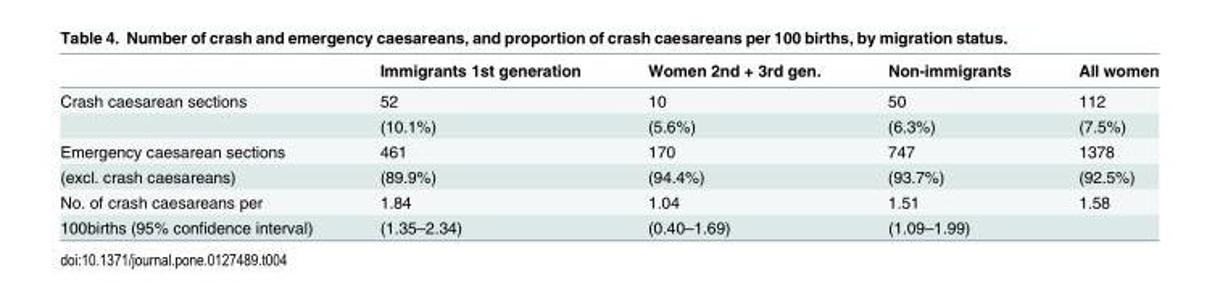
<table><thead><tr><td></td><td>Immigrants 1st generation</td><td>Women 2nd + 3rd gen.</td><td>Non-immigrants</td><td>All women</td></tr></thead><tbody><tr><td rowspan="2">Crash caesarean sections</td><td>52</td><td>10</td><td>50</td><td>112</td></tr><tr><td>(10.1%)</td><td>(5.6%)</td><td>(6.3%)</td><td>(7.5%)</td></tr><tr><td>Emergency caesarean sections</td><td>461</td><td>170</td><td>747</td><td>1378</td></tr><tr><td>(excl. crash caesareans)</td><td>(89.9%)</td><td>(94.4%)</td><td>(93.7%)</td><td>(92.5%)</td></tr><tr><td>No. of crash caesareans per</td><td>1.84</td><td>1.04</td><td>1.51</td><td>1.58</td></tr><tr><td>100births (95% confidence interval)</td><td>(1.35–2.34)</td><td>(0.40–1.69)</td><td>(1.09–1.99)</td><td></td></tr></tbody></table>